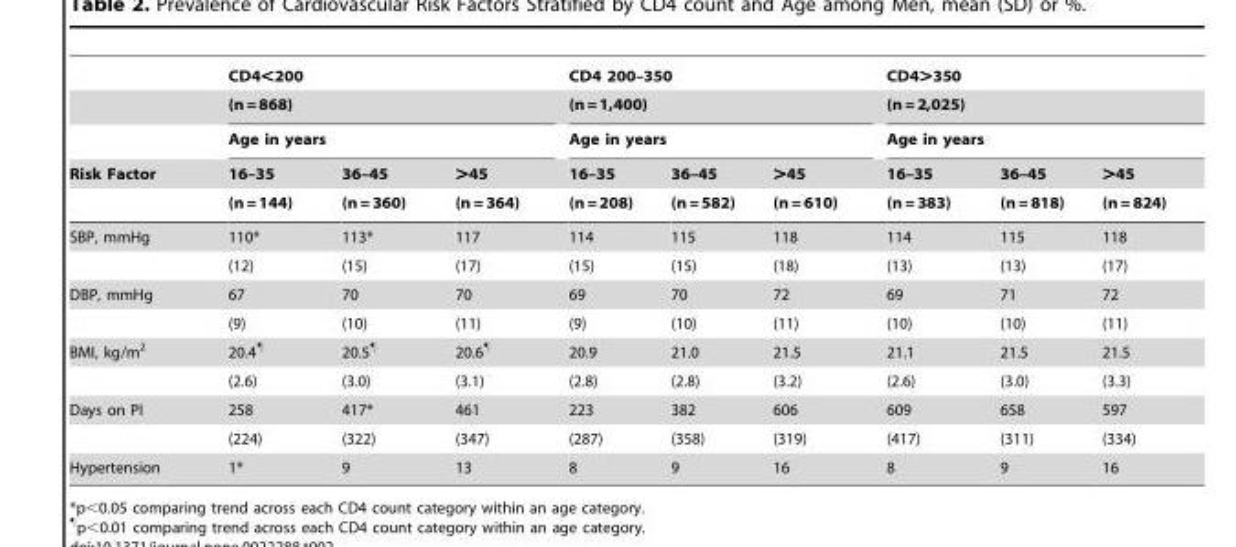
<table><thead><tr><td rowspan="5">Risk Factor</td><td rowspan="3" colspan="3">CD4&lt;200 (n = 868) Age in years</td><td rowspan="3" colspan="3">CD4 200–350 (n = 1,400) Age in years</td><td rowspan="3" colspan="3">CD4&gt;350 (n = 2,025) Age in years</td></tr><tr></tr><tr></tr><tr><td rowspan="2">16–35 (n = 144)</td><td rowspan="2">36–45 (n = 360)</td><td rowspan="2">&gt;45 (n = 364)</td><td rowspan="2">16–35 (n = 208)</td><td rowspan="2">36–45 (n = 582)</td><td rowspan="2">&gt;45 (n = 610)</td><td rowspan="2">16–35 (n = 383)</td><td rowspan="2">36–45 (n = 818)</td><td rowspan="2">&gt;45 (n = 824)</td></tr><tr></tr></thead><tbody><tr><td rowspan="2">SBP, mmHg</td><td>110*</td><td>113*</td><td>117</td><td>114</td><td>115</td><td>118</td><td>114</td><td>115</td><td>118</td></tr><tr><td>(12)</td><td>(15)</td><td>(17)</td><td>(15)</td><td>(15)</td><td>(18)</td><td>(13)</td><td>(13)</td><td>(17)</td></tr><tr><td rowspan="2">DBP, mmHg</td><td>67</td><td>70</td><td>70</td><td>69</td><td>70</td><td>72</td><td>69</td><td>71</td><td>72</td></tr><tr><td>(9)</td><td>(10)</td><td>(11)</td><td>(9)</td><td>(10)</td><td>(11)</td><td>(10)</td><td>(10)</td><td>(11)</td></tr><tr><td rowspan="2">BMI, kg/m<sup>2</sup></td><td>20.4¶</td><td>20.5¶</td><td>20.6¶</td><td>20.9</td><td>21.0</td><td>21.5</td><td>21.1</td><td>21.5</td><td>21.5</td></tr><tr><td>(2.6)</td><td>(3.0)</td><td>(3.1)</td><td>(2.8)</td><td>(2.8)</td><td>(3.2)</td><td>(2.6)</td><td>(3.0)</td><td>(3.3)</td></tr><tr><td rowspan="2">Days on PI</td><td>258</td><td>417*</td><td>461</td><td>223</td><td>382</td><td>606</td><td>609</td><td>658</td><td>597</td></tr><tr><td>(224)</td><td>(322)</td><td>(347)</td><td>(287)</td><td>(358)</td><td>(319)</td><td>(417)</td><td>(311)</td><td>(334)</td></tr><tr><td>Hypertension</td><td>1*</td><td>9</td><td>13</td><td>8</td><td>9</td><td>16</td><td>8</td><td>9</td><td>16</td></tr></tbody></table>